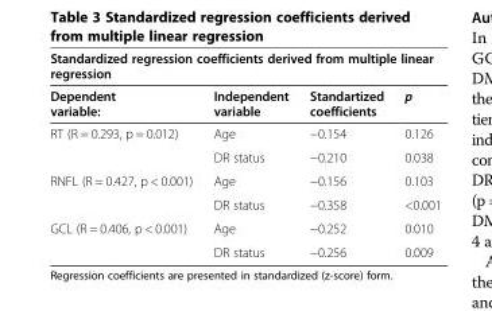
<table><thead><tr><td colspan="4">Standardized regression coefficients derived from multiple linear regression</td></tr><tr><td>Dependent variable:</td><td>Independent variable</td><td>Standartized coefficients</td><td>p</td></tr></thead><tbody><tr><td rowspan="2">RT (R = 0.293, p = 0.012)</td><td>Age</td><td>−0.154</td><td>0.126</td></tr><tr><td>DR status</td><td>−0.210</td><td>0.038</td></tr><tr><td rowspan="2">RNFL (R = 0.427, p &lt; 0.001)</td><td>Age</td><td>−0.156</td><td>0.103</td></tr><tr><td>DR status</td><td>−0.358</td><td>&lt;0.001</td></tr><tr><td rowspan="2">GCL (R = 0.406, p &lt; 0.001)</td><td>Age</td><td>−0.252</td><td>0.010</td></tr><tr><td>DR status</td><td>−0.256</td><td>0.009</td></tr></tbody></table>